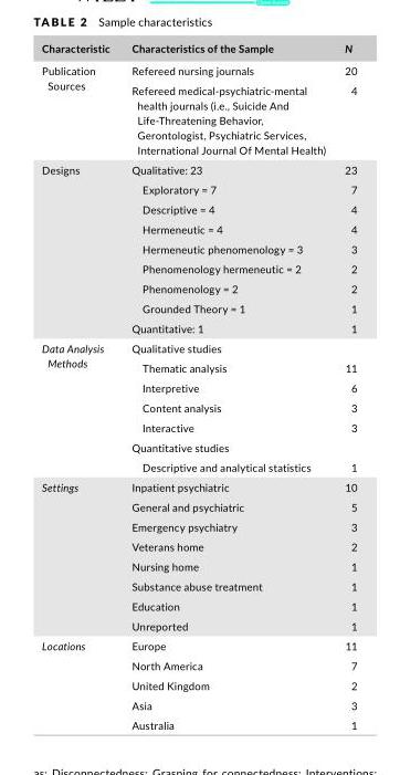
<table><thead><tr><td>Characteristic</td><td>Characteristics of the Sample</td><td>N</td></tr></thead><tbody><tr><td rowspan="2">Publication Sources</td><td>Refereed nursing journals</td><td>20</td></tr><tr><td>Refereed medical‐psychiatric‐mental health journals (i.e., Suicide And Life‐Threatening Behavior, Gerontologist, Psychiatric Services, International Journal Of Mental Health)</td><td>4</td></tr><tr><td rowspan="9">Designs</td><td>Qualitative: 23</td><td>23</td></tr><tr><td>Exploratory = 7</td><td>7</td></tr><tr><td>Descriptive = 4</td><td>4</td></tr><tr><td>Hermeneutic = 4</td><td>4</td></tr><tr><td>Hermeneutic phenomenology = 3</td><td>3</td></tr><tr><td>Phenomenology hermeneutic = 2</td><td>2</td></tr><tr><td>Phenomenology = 2</td><td>2</td></tr><tr><td>Grounded Theory = 1</td><td>1</td></tr><tr><td>Quantitative: 1</td><td>1</td></tr><tr><td rowspan="7">Data Analysis Methods</td><td>Qualitative studies</td><td></td></tr><tr><td>Thematic analysis</td><td>11</td></tr><tr><td>Interpretive</td><td>6</td></tr><tr><td>Content analysis</td><td>3</td></tr><tr><td>Interactive</td><td>3</td></tr><tr><td>Quantitative studies</td><td></td></tr><tr><td>Descriptive and analytical statistics</td><td>1</td></tr><tr><td rowspan="8">Settings</td><td>Inpatient psychiatric</td><td>10</td></tr><tr><td>General and psychiatric</td><td>5</td></tr><tr><td>Emergency psychiatry</td><td>3</td></tr><tr><td>Veterans home</td><td>2</td></tr><tr><td>Nursing home</td><td>1</td></tr><tr><td>Substance abuse treatment</td><td>1</td></tr><tr><td>Education</td><td>1</td></tr><tr><td>Unreported</td><td>1</td></tr><tr><td rowspan="5">Locations</td><td>Europe</td><td>11</td></tr><tr><td>North America</td><td>7</td></tr><tr><td>United Kingdom</td><td>2</td></tr><tr><td>Asia</td><td>3</td></tr><tr><td>Australia</td><td>1</td></tr></tbody></table>